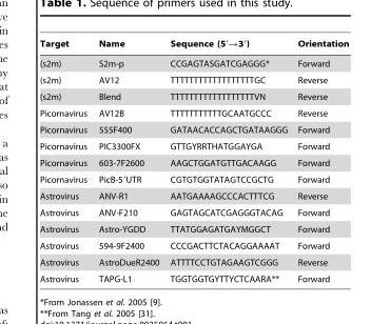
<table><thead><tr><td>Target</td><td>Name</td><td>Sequence (5′→3′)</td><td>Orientation</td></tr></thead><tbody><tr><td>(s2m)</td><td>S2m-p</td><td>CCGAGTASGATCGAGGG*</td><td>Forward</td></tr><tr><td>(s2m)</td><td>AV12</td><td>TTTTTTTTTTTTTTTTTTGC</td><td>Reverse</td></tr><tr><td>(s2m)</td><td>Blend</td><td>TTTTTTTTTTTTTTTTTTVN</td><td>Reverse</td></tr><tr><td>Picornavirus</td><td>AV12B</td><td>TTTTTTTTTTTGCAATGCCC</td><td>Reverse</td></tr><tr><td>Picornavirus</td><td>555F400</td><td>GATAACACCAGCTGATAAGGG</td><td>Forward</td></tr><tr><td>Picornavirus</td><td>PIC3300FX</td><td>GTTGYRRTHATGGAYGA</td><td>Forward</td></tr><tr><td>Picornavirus</td><td>603-7F2600</td><td>AAGCTGGATGTTGACAAGG</td><td>Forward</td></tr><tr><td>Picornavirus</td><td>PicB-5′UTR</td><td>CGTGTGGTATAGTCCGCTG</td><td>Forward</td></tr><tr><td>Astrovirus</td><td>ANV-R1</td><td>AATGAAAAGCCCACTTTCG</td><td>Reverse</td></tr><tr><td>Astrovirus</td><td>ANV-F210</td><td>GAGTAGCATCGAGGGTACAG</td><td>Forward</td></tr><tr><td>Astrovirus</td><td>Astro-YGDD</td><td>TTATGGAGATGAYMGGCT</td><td>Forward</td></tr><tr><td>Astrovirus</td><td>594-9F2400</td><td>CCCGACTTCTACAGGAAAAT</td><td>Forward</td></tr><tr><td>Astrovirus</td><td>AstroDueR2400</td><td>ATTTTCCTGTAGAAGTCGGG</td><td>Reverse</td></tr><tr><td>Astrovirus</td><td>TAPG-L1</td><td>TGGTGGTGYTTYCTCAARA**</td><td>Forward</td></tr></tbody></table>